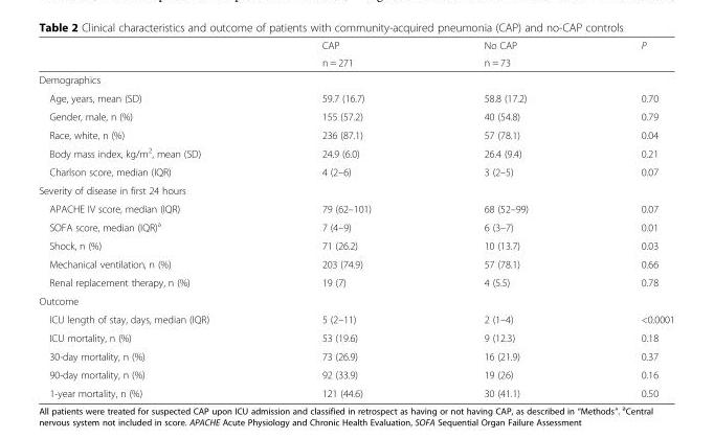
<table><thead><tr><td rowspan="2"></td><td rowspan="2">CAP n = 271</td><td rowspan="2">No CAP n = 73</td><td rowspan="2">P</td></tr><tr></tr></thead><tbody><tr><td colspan="4">Demographics</td></tr><tr><td>Age, years, mean (SD)</td><td>59.7 (16.7)</td><td>58.8 (17.2)</td><td>0.70</td></tr><tr><td>Gender, male, n (%)</td><td>155 (57.2)</td><td>40 (54.8)</td><td>0.79</td></tr><tr><td>Race, white, n (%)</td><td>236 (87.1)</td><td>57 (78.1)</td><td>0.04</td></tr><tr><td>Body mass index, kg/m<sup>2</sup>, mean (SD)</td><td>24.9 (6.0)</td><td>26.4 (9.4)</td><td>0.21</td></tr><tr><td>Charlson score, median (IQR)</td><td>4 (2–6)</td><td>3 (2–5)</td><td>0.07</td></tr><tr><td colspan="4">Severity of disease in first 24 hours</td></tr><tr><td>APACHE IV score, median (IQR)</td><td>79 (62–101)</td><td>68 (52–99)</td><td>0.07</td></tr><tr><td>SOFA score, median (IQR)<sup>a</sup></td><td>7 (4–9)</td><td>6 (3–7)</td><td>0.01</td></tr><tr><td>Shock, n (%)</td><td>71 (26.2)</td><td>10 (13.7)</td><td>0.03</td></tr><tr><td>Mechanical ventilation, n (%)</td><td>203 (74.9)</td><td>57 (78.1)</td><td>0.66</td></tr><tr><td>Renal replacement therapy, n (%)</td><td>19 (7)</td><td>4 (5.5)</td><td>0.78</td></tr><tr><td colspan="4">Outcome</td></tr><tr><td>ICU length of stay, days, median (IQR)</td><td>5 (2–11)</td><td>2 (1–4)</td><td>&lt;0.0001</td></tr><tr><td>ICU mortality, n (%)</td><td>53 (19.6)</td><td>9 (12.3)</td><td>0.18</td></tr><tr><td>30-day mortality, n (%)</td><td>73 (26.9)</td><td>16 (21.9)</td><td>0.37</td></tr><tr><td>90-day mortality, n (%)</td><td>92 (33.9)</td><td>19 (26)</td><td>0.16</td></tr><tr><td>1-year mortality, n (%)</td><td>121 (44.6)</td><td>30 (41.1)</td><td>0.50</td></tr></tbody></table>